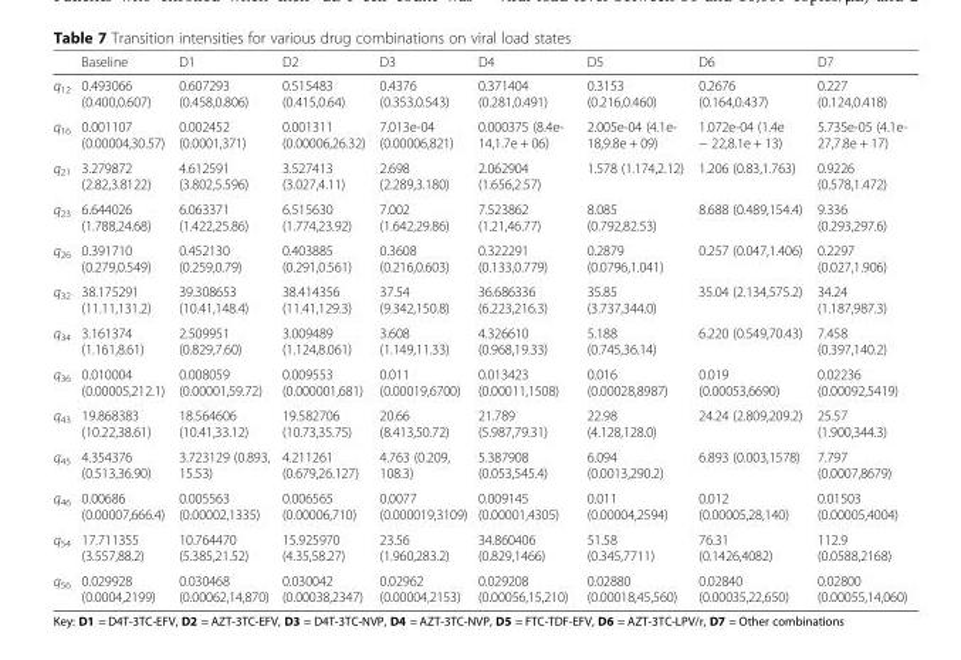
<table><thead><tr><td></td><td>Baseline</td><td>D1</td><td>D2</td><td>D3</td><td>D4</td><td>D5</td><td>D6</td><td>D7</td></tr></thead><tbody><tr><td>q<sub>12</sub></td><td>0.493066 (0.400,0.607)</td><td>0.607293 (0.458,0.806)</td><td>0.515483 (0.415,0.64)</td><td>0.4376 (0.353,0.543)</td><td>0.371404 (0.281,0.491)</td><td>0.3153 (0.216,0.460)</td><td>0.2676 (0.164,0.437)</td><td>0.227 (0.124,0.418)</td></tr><tr><td>q<sub>16</sub></td><td>0.001107 (0.00004,30.57)</td><td>0.002452 (0.0001,371)</td><td>0.001311 (0.00006,26.32)</td><td>7.013e-04 (0.00006,821)</td><td>0.000375 (8.4e- 14,1.7e + 06)</td><td>2.005e-04 (4.1e- 18,9.8e + 09)</td><td>1.072e-04 (1.4e − 22,8.1e + 13)</td><td>5.735e-05 (4.1e- 27,7.8e + 17)</td></tr><tr><td>q<sub>21</sub></td><td>3.279872 (2.82,3.8122)</td><td>4.612591 (3.802,5.596)</td><td>3.527413 (3.027,4.11)</td><td>2.698 (2.289,3.180)</td><td>2.062904 (1.656,2.57)</td><td>1.578 (1.174,2.12)</td><td>1.206 (0.83,1.763)</td><td>0.9226 (0.578,1.472)</td></tr><tr><td>q<sub>23</sub></td><td>6.644026 (1.788,24.68)</td><td>6.063371 (1.422,25.86)</td><td>6.515630 (1.774,23.92)</td><td>7.002 (1.642,29.86)</td><td>7.523862 (1.21,46.77)</td><td>8.085 (0.792,82.53)</td><td>8.688 (0.489,154.4)</td><td>9.336 (0.293,297.6)</td></tr><tr><td>q<sub>26</sub></td><td>0.391710 (0.279,0.549)</td><td>0.452130 (0.259,0.79)</td><td>0.403885 (0.291,0.561)</td><td>0.3608 (0.216,0.603)</td><td>0.322291 (0.133,0.779)</td><td>0.2879 (0.0796,1.041)</td><td>0.257 (0.047,1.406)</td><td>0.2297 (0.027,1.906)</td></tr><tr><td>q<sub>32</sub></td><td>38.175291 (11.11,131.2)</td><td>39.308653 (10.41,148.4)</td><td>38.414356 (11.41,129.3)</td><td>37.54 (9.342,150.8)</td><td>36.686336 (6.223,216.3)</td><td>35.85 (3.737,344.0)</td><td>35.04 (2.134,575.2)</td><td>34.24 (1.187,987.3)</td></tr><tr><td>q<sub>34</sub></td><td>3.161374 (1.161,8.61)</td><td>2.509951 (0.829,7.60)</td><td>3.009489 (1.124,8.061)</td><td>3.608 (1.149,11.33)</td><td>4.326610 (0.968,19.33)</td><td>5.188 (0.745,36.14)</td><td>6.220 (0.549,70.43)</td><td>7.458 (0.397,140.2)</td></tr><tr><td>q<sub>36</sub></td><td>0.010004 (0.00005,212.1)</td><td>0.008059 (0.00001,59.72)</td><td>0.009553 (0.000001,681)</td><td>0.011 (0.00019,6700)</td><td>0.013423 (0.00011,1508)</td><td>0.016 (0.00028,8987)</td><td>0.019 (0.00053,6690)</td><td>0.02236 (0.00092,5419)</td></tr><tr><td>q<sub>43</sub></td><td>19.868383 (10.22,38.61)</td><td>18.564606 (10.41,33.12)</td><td>19.582706 (10.73,35.75)</td><td>20.66 (8.413,50.72)</td><td>21.789 (5.987,79.31)</td><td>22.98 (4.128,128.0)</td><td>24.24 (2.809,209.2)</td><td>25.57 (1.900,344.3)</td></tr><tr><td>q<sub>45</sub></td><td>4.354376 (0.513,36.90)</td><td>3.723129 (0.893, 15.53)</td><td>4.211261 (0.679,26.127)</td><td>4.763 (0.209, 108.3)</td><td>5.387908 (0.053,545.4)</td><td>6.094 (0.0013,290.2)</td><td>6.893 (0.003,1578)</td><td>7.797 (0.0007,8679)</td></tr><tr><td>q<sub>46</sub></td><td>0.00686 (0.00007,666.4)</td><td>0.005563 (0.00002,1335)</td><td>0.006565 (0.00006,710)</td><td>0.0077 (0.000019,3109)</td><td>0.009145 (0.00001,4305)</td><td>0.011 (0.00004,2594)</td><td>0.012 (0.00005,28,140)</td><td>0.01503 (0.00005,4004)</td></tr><tr><td>q<sub>54</sub></td><td>17.711355 (3.557,88.2)</td><td>10.764470 (5.385,21.52)</td><td>15.925970 (4.35,58.27)</td><td>23.56 (1.960,283.2)</td><td>34.860406 (0.829,1466)</td><td>51.58 (0.345,7711)</td><td>76.31 (0.1426,4082)</td><td>112.9 (0.0588,2168)</td></tr><tr><td>q<sub>56</sub></td><td>0.029928 (0.0004,2199)</td><td>0.030468 (0.00062,14,870)</td><td>0.030042 (0.00038,2347)</td><td>0.02962 (0.00004,2153)</td><td>0.029208 (0.00056,15,210)</td><td>0.02880 (0.00018,45,560)</td><td>0.02840 (0.00035,22,650)</td><td>0.02800 (0.00055,14,060)</td></tr></tbody></table>